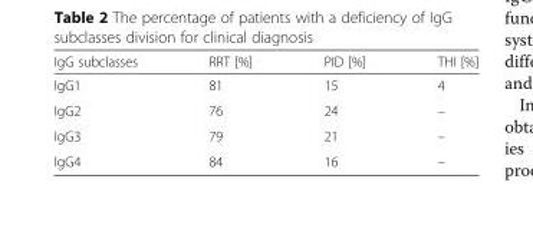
<table><thead><tr><td>IgG subclasses</td><td>RRT [%]</td><td>PID [%]</td><td>THI [%]</td></tr></thead><tbody><tr><td>IgG1</td><td>81</td><td>15</td><td>4</td></tr><tr><td>IgG2</td><td>76</td><td>24</td><td>–</td></tr><tr><td>IgG3</td><td>79</td><td>21</td><td>–</td></tr><tr><td>IgG4</td><td>84</td><td>16</td><td>–</td></tr></tbody></table>